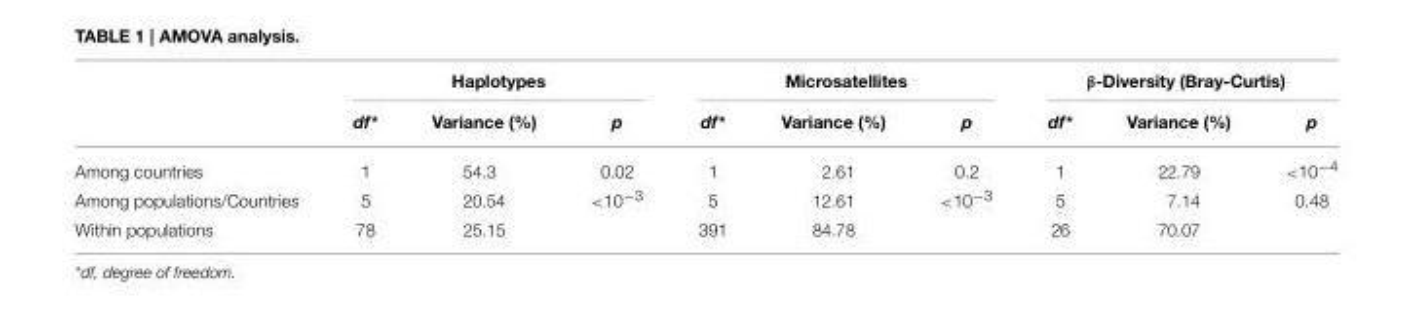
<table><thead><tr><td rowspan="2"></td><td colspan="3">Haplotypes</td><td colspan="3">Microsatellites</td><td colspan="3">β-Diversity (Bray-Curtis)</td></tr><tr><td>df*</td><td>Variance (%)</td><td>p</td><td>df*</td><td>Variance (%)</td><td>p</td><td>df*</td><td>Variance (%)</td><td>p</td></tr></thead><tbody><tr><td>Among countries</td><td>1</td><td>54.3</td><td>0.02</td><td>1</td><td>2.61</td><td>0.2</td><td>1</td><td>22.79</td><td>&lt;10<sup>−4</sup></td></tr><tr><td>Among populations/Countries</td><td>5</td><td>20.54</td><td>&lt;10<sup>−3</sup></td><td>5</td><td>12.61</td><td>&lt;10<sup>−3</sup></td><td>5</td><td>7.14</td><td>0.48</td></tr><tr><td>Within populations</td><td>78</td><td>25.15</td><td></td><td>391</td><td>84.78</td><td></td><td>26</td><td>70.07</td><td></td></tr></tbody></table>